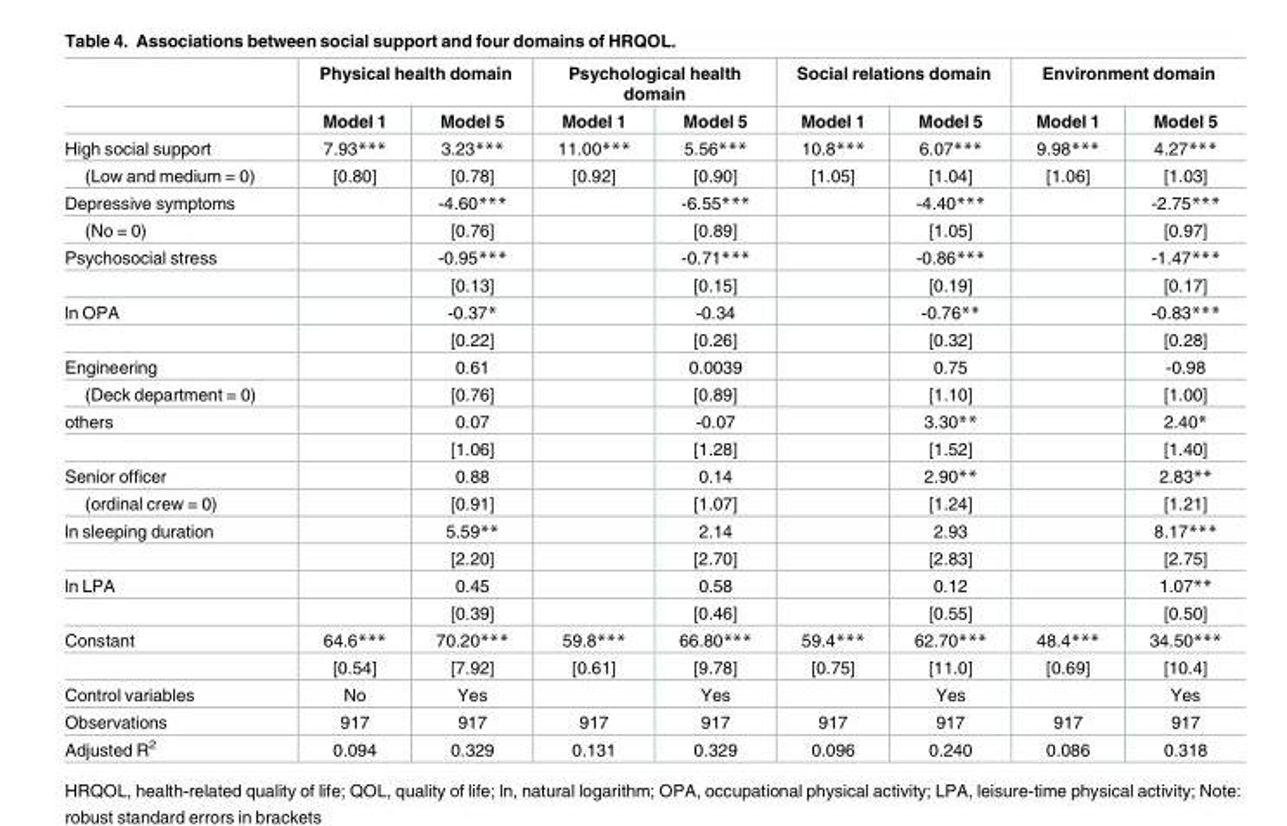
<table><thead><tr><td rowspan="2"></td><td colspan="2">Physical health domain</td><td colspan="2">Psychological health domain</td><td colspan="2">Social relations domain</td><td colspan="2">Environment domain</td></tr><tr><td>Model 1</td><td>Model 5</td><td>Model 1</td><td>Model 5</td><td>Model 1</td><td>Model 5</td><td>Model 1</td><td>Model 5</td></tr></thead><tbody><tr><td>High social support</td><td>7.93***</td><td>3.23***</td><td>11.00***</td><td>5.56***</td><td>10.8***</td><td>6.07***</td><td>9.98***</td><td>4.27***</td></tr><tr><td>(Low and medium = 0)</td><td>[0.80]</td><td>[0.78]</td><td>[0.92]</td><td>[0.90]</td><td>[1.05]</td><td>[1.04]</td><td>[1.06]</td><td>[1.03]</td></tr><tr><td>Depressive symptoms</td><td></td><td>-4.60***</td><td></td><td>-6.55***</td><td></td><td>-4.40***</td><td></td><td>-2.75***</td></tr><tr><td>(No = 0)</td><td></td><td>[0.76]</td><td></td><td>[0.89]</td><td></td><td>[1.05]</td><td></td><td>[0.97]</td></tr><tr><td rowspan="2">Psychosocial stress</td><td></td><td>-0.95***</td><td></td><td>-0.71***</td><td></td><td>-0.86***</td><td></td><td>-1.47***</td></tr><tr><td></td><td>[0.13]</td><td></td><td>[0.15]</td><td></td><td>[0.19]</td><td></td><td>[0.17]</td></tr><tr><td rowspan="2">ln OPA</td><td></td><td>-0.37*</td><td></td><td>-0.34</td><td></td><td>-0.76**</td><td></td><td>-0.83***</td></tr><tr><td></td><td>[0.22]</td><td></td><td>[0.26]</td><td></td><td>[0.32]</td><td></td><td>[0.28]</td></tr><tr><td>Engineering</td><td></td><td>0.61</td><td></td><td>0.0039</td><td></td><td>0.75</td><td></td><td>-0.98</td></tr><tr><td>(Deck department = 0)</td><td></td><td>[0.76]</td><td></td><td>[0.89]</td><td></td><td>[1.10]</td><td></td><td>[1.00]</td></tr><tr><td rowspan="2">others</td><td></td><td>0.07</td><td></td><td>-0.07</td><td></td><td>3.30**</td><td></td><td>2.40*</td></tr><tr><td></td><td>[1.06]</td><td></td><td>[1.28]</td><td></td><td>[1.52]</td><td></td><td>[1.40]</td></tr><tr><td>Senior officer</td><td></td><td>0.88</td><td></td><td>0.14</td><td></td><td>2.90**</td><td></td><td>2.83**</td></tr><tr><td>(ordinal crew = 0)</td><td></td><td>[0.91]</td><td></td><td>[1.07]</td><td></td><td>[1.24]</td><td></td><td>[1.21]</td></tr><tr><td rowspan="2">ln sleeping duration</td><td></td><td>5.59**</td><td></td><td>2.14</td><td></td><td>2.93</td><td></td><td>8.17***</td></tr><tr><td></td><td>[2.20]</td><td></td><td>[2.70]</td><td></td><td>[2.83]</td><td></td><td>[2.75]</td></tr><tr><td rowspan="2">ln LPA</td><td></td><td>0.45</td><td></td><td>0.58</td><td></td><td>0.12</td><td></td><td>1.07**</td></tr><tr><td></td><td>[0.39]</td><td></td><td>[0.46]</td><td></td><td>[0.55]</td><td></td><td>[0.50]</td></tr><tr><td rowspan="2">Constant</td><td>64.6***</td><td>70.20***</td><td>59.8***</td><td>66.80***</td><td>59.4***</td><td>62.70***</td><td>48.4***</td><td>34.50***</td></tr><tr><td>[0.54]</td><td>[7.92]</td><td>[0.61]</td><td>[9.78]</td><td>[0.75]</td><td>[11.0]</td><td>[0.69]</td><td>[10.4]</td></tr><tr><td>Control variables</td><td>No</td><td>Yes</td><td></td><td>Yes</td><td></td><td>Yes</td><td></td><td>Yes</td></tr><tr><td>Observations</td><td>917</td><td>917</td><td>917</td><td>917</td><td>917</td><td>917</td><td>917</td><td>917</td></tr><tr><td>Adjusted R<sup>2</sup></td><td>0.094</td><td>0.329</td><td>0.131</td><td>0.329</td><td>0.096</td><td>0.240</td><td>0.086</td><td>0.318</td></tr></tbody></table>